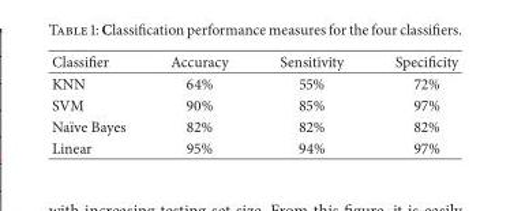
<table><thead><tr><td>Classifier</td><td>Accuracy</td><td>Sensitivity</td><td>Specificity</td></tr></thead><tbody><tr><td>KNN</td><td>64%</td><td>55%</td><td>72%</td></tr><tr><td>SVM</td><td>90%</td><td>85%</td><td>97%</td></tr><tr><td>Na¨ıve Bayes</td><td>82%</td><td>82%</td><td>82%</td></tr><tr><td>Linear</td><td>95%</td><td>94%</td><td>97%</td></tr></tbody></table>